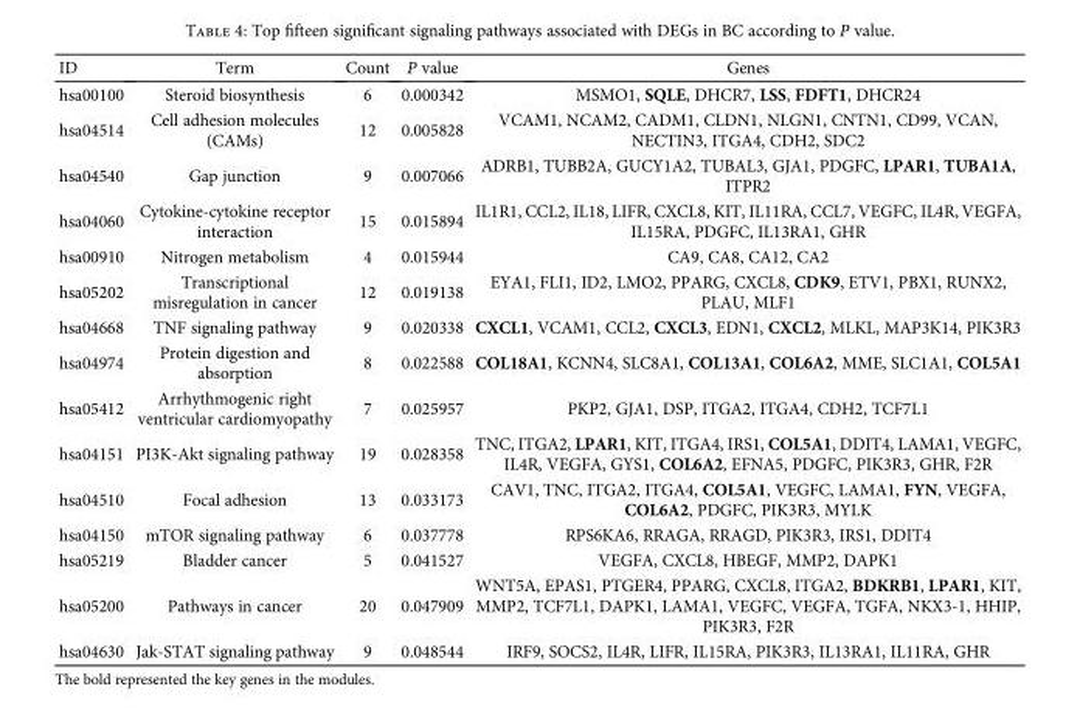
<table><thead><tr><td>ID</td><td>Term</td><td>Count</td><td>P value</td><td>Genes</td></tr></thead><tbody><tr><td>hsa00100</td><td>Steroid biosynthesis</td><td>6</td><td>0.000342</td><td>MSMO1, SQLE, DHCR7, LSS, FDFT1, DHCR24</td></tr><tr><td>hsa04514</td><td>Cell adhesion molecules (CAMs)</td><td>12</td><td>0.005828</td><td>VCAM1, NCAM2, CADM1, CLDN1, NLGN1, CNTN1, CD99, VCAN, NECTIN3, ITGA4, CDH2, SDC2</td></tr><tr><td>hsa04540</td><td>Gap junction</td><td>9</td><td>0.007066</td><td>ADRB1, TUBB2A, GUCY1A2, TUBAL3, GJA1, PDGFC, LPAR1, TUBA1A, ITPR2</td></tr><tr><td>hsa04060</td><td>Cytokine-cytokine receptor interaction</td><td>15</td><td>0.015894</td><td>IL1R1, CCL2, IL18, LIFR, CXCL8, KIT, IL11RA, CCL7, VEGFC, IL4R, VEGFA, IL15RA, PDGFC, IL13RA1, GHR</td></tr><tr><td>hsa00910</td><td>Nitrogen metabolism</td><td>4</td><td>0.015944</td><td>CA9, CA8, CA12, CA2</td></tr><tr><td>hsa05202</td><td>Transcriptional misregulation in cancer</td><td>12</td><td>0.019138</td><td>EYA1, FLI1, ID2, LMO2, PPARG, CXCL8, CDK9, ETV1, PBX1, RUNX2, PLAU, MLF1</td></tr><tr><td>hsa04668</td><td>TNF signaling pathway</td><td>9</td><td>0.020338</td><td>CXCL1, VCAM1, CCL2, CXCL3, EDN1, CXCL2, MLKL, MAP3K14, PIK3R3</td></tr><tr><td>hsa04974</td><td>Protein digestion and absorption</td><td>8</td><td>0.022588</td><td>COL18A1, KCNN4, SLC8A1, COL13A1, COL6A2, MME, SLC1A1, COL5A1</td></tr><tr><td>hsa05412</td><td>Arrhythmogenic right ventricular cardiomyopathy</td><td>7</td><td>0.025957</td><td>PKP2, GJA1, DSP, ITGA2, ITGA4, CDH2, TCF7L1</td></tr><tr><td>hsa04151</td><td>PI3K-Akt signaling pathway</td><td>19</td><td>0.028358</td><td>TNC, ITGA2, LPAR1, KIT, ITGA4, IRS1, COL5A1, DDIT4, LAMA1, VEGFC, IL4R, VEGFA, GYS1, COL6A2, EFNA5, PDGFC, PIK3R3, GHR, F2R</td></tr><tr><td>hsa04510</td><td>Focal adhesion</td><td>13</td><td>0.033173</td><td>CAV1, TNC, ITGA2, ITGA4, COL5A1, VEGFC, LAMA1, FYN, VEGFA, COL6A2, PDGFC, PIK3R3, MYLK</td></tr><tr><td>hsa04150</td><td>mTOR signaling pathway</td><td>6</td><td>0.037778</td><td>RPS6KA6, RRAGA, RRAGD, PIK3R3, IRS1, DDIT4</td></tr><tr><td>hsa05219</td><td>Bladder cancer</td><td>5</td><td>0.041527</td><td>VEGFA, CXCL8, HBEGF, MMP2, DAPK1</td></tr><tr><td>hsa05200</td><td>Pathways in cancer</td><td>20</td><td>0.047909</td><td>WNT5A, EPAS1, PTGER4, PPARG, CXCL8, ITGA2, BDKRB1, LPAR1, KIT, MMP2, TCF7L1, DAPK1, LAMA1, VEGFC, VEGFA, TGFA, NKX3-1, HHIP, PIK3R3, F2R</td></tr><tr><td>hsa04630</td><td>Jak-STAT signaling pathway</td><td>9</td><td>0.048544</td><td>IRF9, SOCS2, IL4R, LIFR, IL15RA, PIK3R3, IL13RA1, IL11RA, GHR</td></tr></tbody></table>